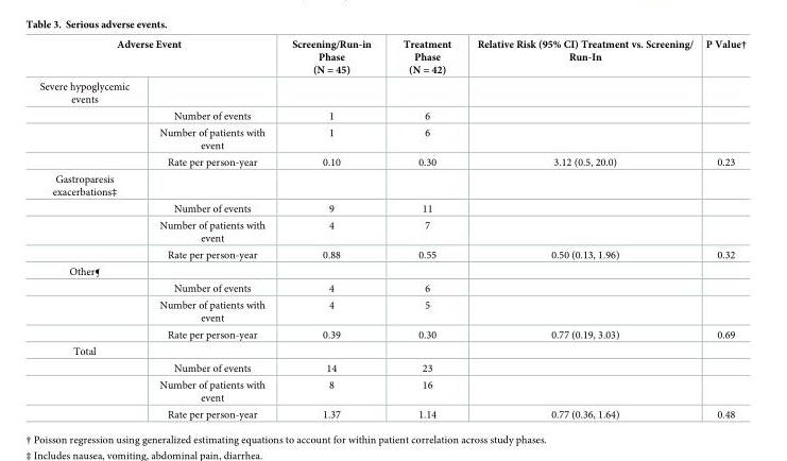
<table><thead><tr><td colspan="2">Adverse Event</td><td rowspan="2">Screening/Run-in Phase (N = 45)</td><td rowspan="2">Treatment Phase (N = 42)</td><td rowspan="2">Relative Risk (95% CI) Treatment vs. Screening/ Run-In</td><td rowspan="2">P Value†</td></tr><tr><td>Severe hypoglycemic events</td><td></td></tr></thead><tbody><tr><td></td><td>Number of events</td><td>1</td><td>6</td><td></td><td></td></tr><tr><td></td><td>Number of patients with event</td><td>1</td><td>6</td><td></td><td></td></tr><tr><td></td><td>Rate per person-year</td><td>0.10</td><td>0.30</td><td>3.12 (0.5, 20.0)</td><td>0.23</td></tr><tr><td colspan="6">Gastroparesis exacerbations‡</td></tr><tr><td></td><td>Number of events</td><td>9</td><td>11</td><td></td><td></td></tr><tr><td></td><td>Number of patients with event</td><td>4</td><td>7</td><td></td><td></td></tr><tr><td></td><td>Rate per person-year</td><td>0.88</td><td>0.55</td><td>0.50 (0.13, 1.96)</td><td>0.32</td></tr><tr><td colspan="6">Other¶</td></tr><tr><td></td><td>Number of events</td><td>4</td><td>6</td><td></td><td></td></tr><tr><td></td><td>Number of patients with event</td><td>4</td><td>5</td><td></td><td></td></tr><tr><td></td><td>Rate per person-year</td><td>0.39</td><td>0.30</td><td>0.77 (0.19, 3.03)</td><td>0.69</td></tr><tr><td colspan="6">Total</td></tr><tr><td></td><td>Number of events</td><td>14</td><td>23</td><td></td><td></td></tr><tr><td></td><td>Number of patients with event</td><td>8</td><td>16</td><td></td><td></td></tr><tr><td></td><td>Rate per person-year</td><td>1.37</td><td>1.14</td><td>0.77 (0.36, 1.64)</td><td>0.48</td></tr></tbody></table>